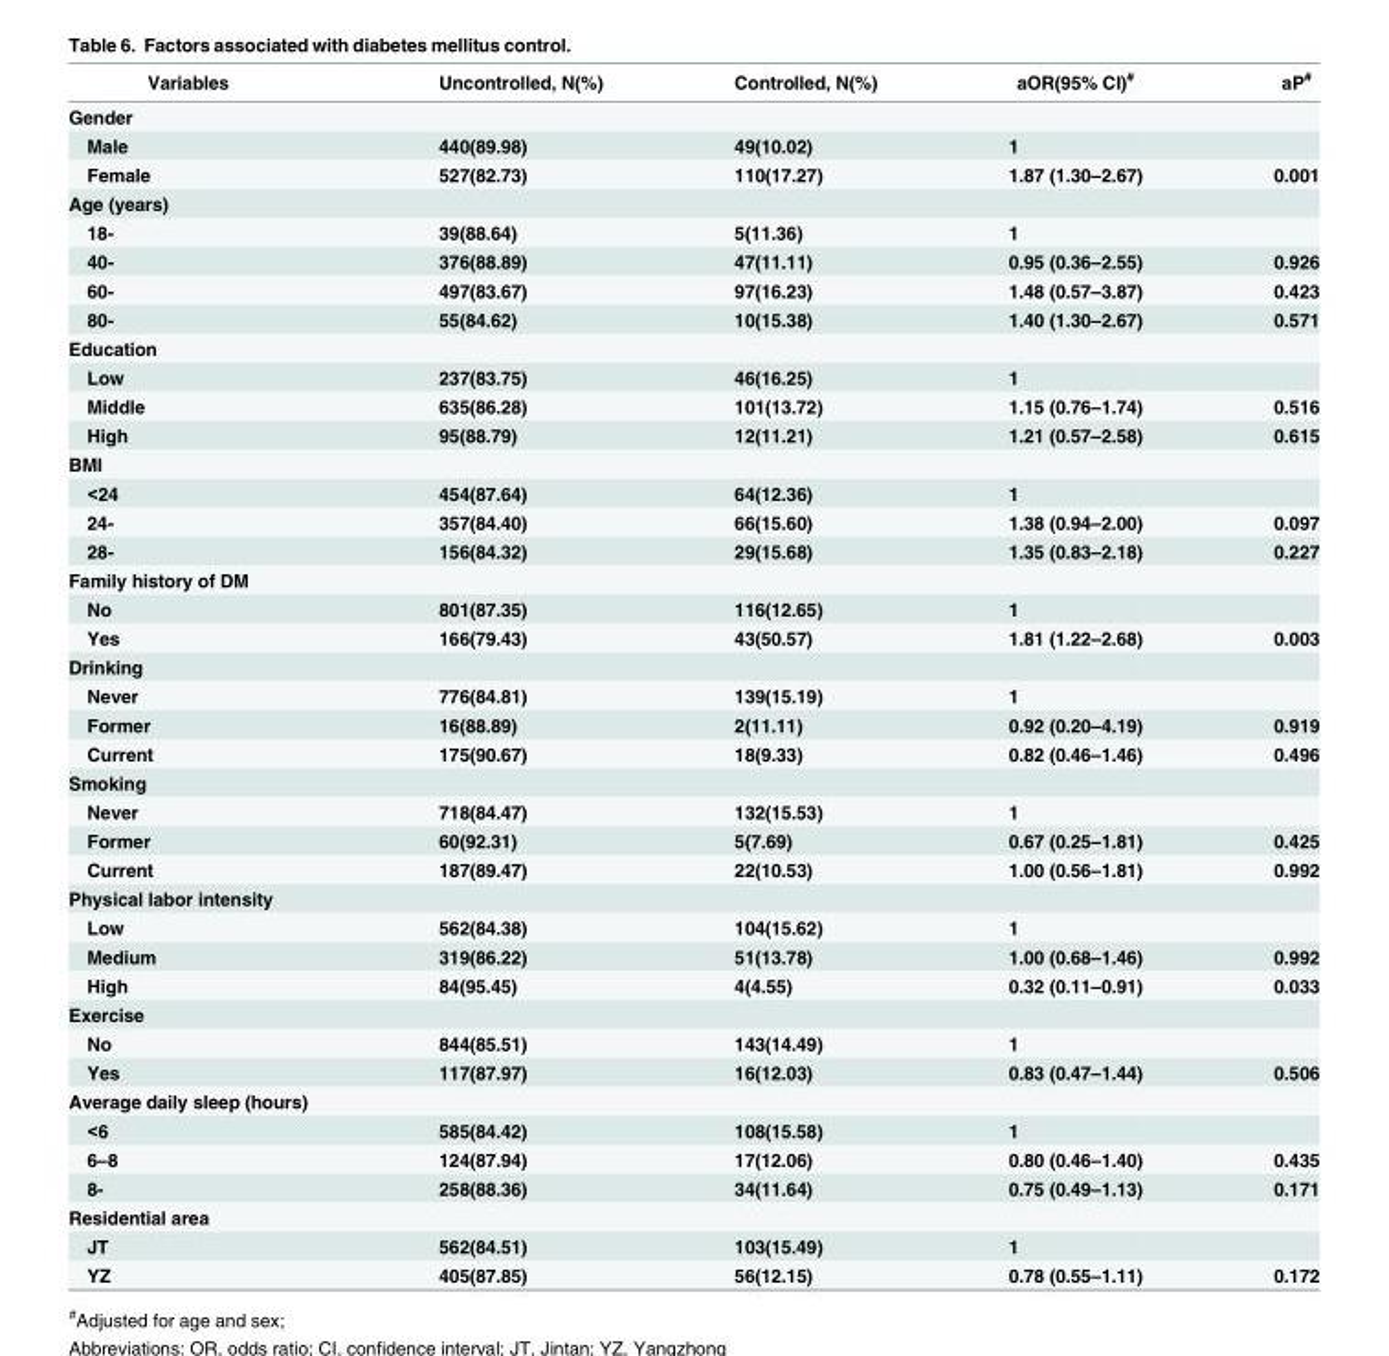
<table><thead><tr><td>Variables</td><td>Uncontrolled, N(%)</td><td>Controlled, N(%)</td><td>aOR(95% CI)<sup>#</sup></td><td>aP<sup>#</sup></td></tr></thead><tbody><tr><td colspan="5">Gender</td></tr><tr><td>Male</td><td>440(89.98)</td><td>49(10.02)</td><td>1</td><td></td></tr><tr><td>Female</td><td>527(82.73)</td><td>110(17.27)</td><td>1.87 (1.30–2.67)</td><td>0.001</td></tr><tr><td colspan="5">Age (years)</td></tr><tr><td>18-</td><td>39(88.64)</td><td>5(11.36)</td><td>1</td><td></td></tr><tr><td>40-</td><td>376(88.89)</td><td>47(11.11)</td><td>0.95 (0.36–2.55)</td><td>0.926</td></tr><tr><td>60-</td><td>497(83.67)</td><td>97(16.23)</td><td>1.48 (0.57–3.87)</td><td>0.423</td></tr><tr><td>80-</td><td>55(84.62)</td><td>10(15.38)</td><td>1.40 (1.30–2.67)</td><td>0.571</td></tr><tr><td colspan="5">Education</td></tr><tr><td>Low</td><td>237(83.75)</td><td>46(16.25)</td><td>1</td><td></td></tr><tr><td>Middle</td><td>635(86.28)</td><td>101(13.72)</td><td>1.15 (0.76–1.74)</td><td>0.516</td></tr><tr><td>High</td><td>95(88.79)</td><td>12(11.21)</td><td>1.21 (0.57–2.58)</td><td>0.615</td></tr><tr><td colspan="5">BMI</td></tr><tr><td>&lt;24</td><td>454(87.64)</td><td>64(12.36)</td><td>1</td><td></td></tr><tr><td>24-</td><td>357(84.40)</td><td>66(15.60)</td><td>1.38 (0.94–2.00)</td><td>0.097</td></tr><tr><td>28-</td><td>156(84.32)</td><td>29(15.68)</td><td>1.35 (0.83–2.18)</td><td>0.227</td></tr><tr><td colspan="5">Family history of DM</td></tr><tr><td>No</td><td>801(87.35)</td><td>116(12.65)</td><td>1</td><td></td></tr><tr><td>Yes</td><td>166(79.43)</td><td>43(50.57)</td><td>1.81 (1.22–2.68)</td><td>0.003</td></tr><tr><td colspan="5">Drinking</td></tr><tr><td>Never</td><td>776(84.81)</td><td>139(15.19)</td><td>1</td><td></td></tr><tr><td>Former</td><td>16(88.89)</td><td>2(11.11)</td><td>0.92 (0.20–4.19)</td><td>0.919</td></tr><tr><td>Current</td><td>175(90.67)</td><td>18(9.33)</td><td>0.82 (0.46–1.46)</td><td>0.496</td></tr><tr><td colspan="5">Smoking</td></tr><tr><td>Never</td><td>718(84.47)</td><td>132(15.53)</td><td>1</td><td></td></tr><tr><td>Former</td><td>60(92.31)</td><td>5(7.69)</td><td>0.67 (0.25–1.81)</td><td>0.425</td></tr><tr><td>Current</td><td>187(89.47)</td><td>22(10.53)</td><td>1.00 (0.56–1.81)</td><td>0.992</td></tr><tr><td colspan="5">Physical labor intensity</td></tr><tr><td>Low</td><td>562(84.38)</td><td>104(15.62)</td><td>1</td><td></td></tr><tr><td>Medium</td><td>319(86.22)</td><td>51(13.78)</td><td>1.00 (0.68–1.46)</td><td>0.992</td></tr><tr><td>High</td><td>84(95.45)</td><td>4(4.55)</td><td>0.32 (0.11–0.91)</td><td>0.033</td></tr><tr><td colspan="5">Exercise</td></tr><tr><td>No</td><td>844(85.51)</td><td>143(14.49)</td><td>1</td><td></td></tr><tr><td>Yes</td><td>117(87.97)</td><td>16(12.03)</td><td>0.83 (0.47–1.44)</td><td>0.506</td></tr><tr><td colspan="5">Average daily sleep (hours)</td></tr><tr><td>&lt;6</td><td>585(84.42)</td><td>108(15.58)</td><td>1</td><td></td></tr><tr><td>6–8</td><td>124(87.94)</td><td>17(12.06)</td><td>0.80 (0.46–1.40)</td><td>0.435</td></tr><tr><td>8-</td><td>258(88.36)</td><td>34(11.64)</td><td>0.75 (0.49–1.13)</td><td>0.171</td></tr><tr><td colspan="5">Residential area</td></tr><tr><td>JT</td><td>562(84.51)</td><td>103(15.49)</td><td>1</td><td></td></tr><tr><td>YZ</td><td>405(87.85)</td><td>56(12.15)</td><td>0.78 (0.55–1.11)</td><td>0.172</td></tr></tbody></table>